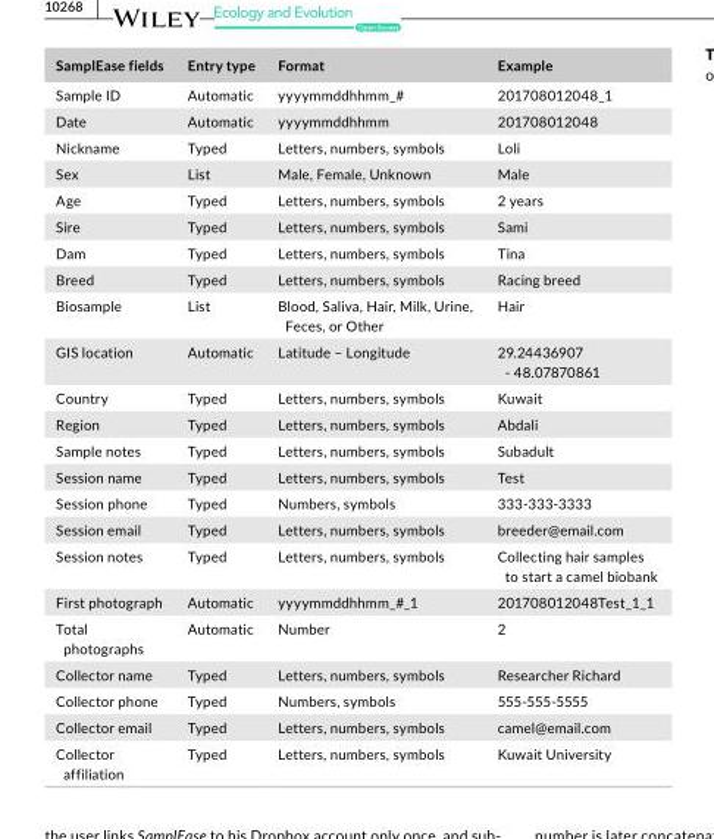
<table><thead><tr><td>SamplEase fields</td><td>Entry type</td><td>Format</td><td>Example</td></tr></thead><tbody><tr><td>Sample ID</td><td>Automatic</td><td>yyyymmddhhmm_#</td><td>201708012048_1</td></tr><tr><td>Date</td><td>Automatic</td><td>yyyymmddhhmm</td><td>201708012048</td></tr><tr><td>Nickname</td><td>Typed</td><td>Letters, numbers, symbols</td><td>Loli</td></tr><tr><td>Sex</td><td>List</td><td>Male, Female, Unknown</td><td>Male</td></tr><tr><td>Age</td><td>Typed</td><td>Letters, numbers, symbols</td><td>2 years</td></tr><tr><td>Sire</td><td>Typed</td><td>Letters, numbers, symbols</td><td>Sami</td></tr><tr><td>Dam</td><td>Typed</td><td>Letters, numbers, symbols</td><td>Tina</td></tr><tr><td>Breed</td><td>Typed</td><td>Letters, numbers, symbols</td><td>Racing breed</td></tr><tr><td>Biosample</td><td>List</td><td>Blood, Saliva, Hair, Milk, Urine, Feces, or Other</td><td>Hair</td></tr><tr><td>GIS location</td><td>Automatic</td><td>Latitude – Longitude</td><td>29.24436907 - 48.07870861</td></tr><tr><td>Country</td><td>Typed</td><td>Letters, numbers, symbols</td><td>Kuwait</td></tr><tr><td>Region</td><td>Typed</td><td>Letters, numbers, symbols</td><td>Abdali</td></tr><tr><td>Sample notes</td><td>Typed</td><td>Letters, numbers, symbols</td><td>Subadult</td></tr><tr><td>Session name</td><td>Typed</td><td>Letters, numbers, symbols</td><td>Test</td></tr><tr><td>Session phone</td><td>Typed</td><td>Numbers, symbols</td><td>333- 333- 3333</td></tr><tr><td>Session email</td><td>Typed</td><td>Letters, numbers, symbols</td><td>breeder@email.com</td></tr><tr><td>Session notes</td><td>Typed</td><td>Letters, numbers, symbols</td><td>Collecting hair samples to start a camel biobank</td></tr><tr><td>First photograph</td><td>Automatic</td><td>yyyymmddhhmm_#_1</td><td>201708012048Test_1_1</td></tr><tr><td>Total photographs</td><td>Automatic</td><td>Number</td><td>2</td></tr><tr><td>Collector name</td><td>Typed</td><td>Letters, numbers, symbols</td><td>Researcher Richard</td></tr><tr><td>Collector phone</td><td>Typed</td><td>Numbers, symbols</td><td>555- 555- 5555</td></tr><tr><td>Collector email</td><td>Typed</td><td>Letters, numbers, symbols</td><td>camel@email.com</td></tr><tr><td>Collector affiliation</td><td>Typed</td><td>Letters, numbers, symbols</td><td>Kuwait University</td></tr></tbody></table>